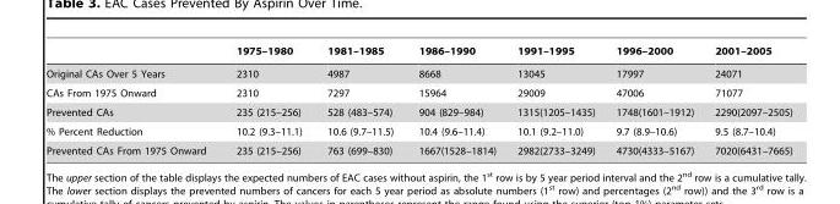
<table><thead><tr><td></td><td>1975–1980</td><td>1981–1985</td><td>1986–1990</td><td>1991–1995</td><td>1996–2000</td><td>2001–2005</td></tr></thead><tbody><tr><td>Original CAs Over 5 Years</td><td>2310</td><td>4987</td><td>8668</td><td>13045</td><td>17997</td><td>24071</td></tr><tr><td>CAs From 1975 Onward</td><td>2310</td><td>7297</td><td>15964</td><td>29009</td><td>47006</td><td>71077</td></tr><tr><td>Prevented CAs</td><td>235 (215–256)</td><td>528 (483–574)</td><td>904 (829–984)</td><td>1315(1205–1435)</td><td>1748(1601–1912)</td><td>2290(2097–2505)</td></tr><tr><td>% Percent Reduction</td><td>10.2 (9.3–11.1)</td><td>10.6 (9.7–11.5)</td><td>10.4 (9.6–11.4)</td><td>10.1 (9.2–11.0)</td><td>9.7 (8.9–10.6)</td><td>9.5 (8.7–10.4)</td></tr><tr><td>Prevented CAs From 1975 Onward</td><td>235 (215–256)</td><td>763 (699–830)</td><td>1667(1528–1814)</td><td>2982(2733–3249)</td><td>4730(4333–5167)</td><td>7020(6431–7665)</td></tr></tbody></table>